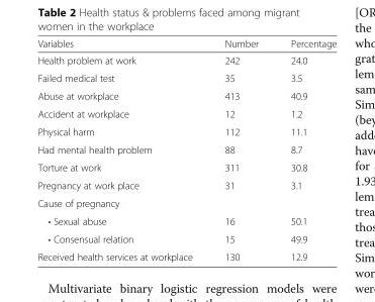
<table><thead><tr><td>Variables</td><td>Number</td><td>Percentage</td></tr></thead><tbody><tr><td>Health problem at work</td><td>242</td><td>24.0</td></tr><tr><td>Failed medical test</td><td>35</td><td>3.5</td></tr><tr><td>Abuse at workplace</td><td>413</td><td>40.9</td></tr><tr><td>Accident at workplace</td><td>12</td><td>1.2</td></tr><tr><td>Physical harm</td><td>112</td><td>11.1</td></tr><tr><td>Had mental health problem</td><td>88</td><td>8.7</td></tr><tr><td>Torture at work</td><td>311</td><td>30.8</td></tr><tr><td>Pregnancy at work place</td><td>31</td><td>3.1</td></tr><tr><td colspan="3">Cause of pregnancy</td></tr><tr><td>• Sexual abuse</td><td>16</td><td>50.1</td></tr><tr><td>• Consensual relation</td><td>15</td><td>49.9</td></tr><tr><td>Received health services at workplace</td><td>130</td><td>12.9</td></tr></tbody></table>